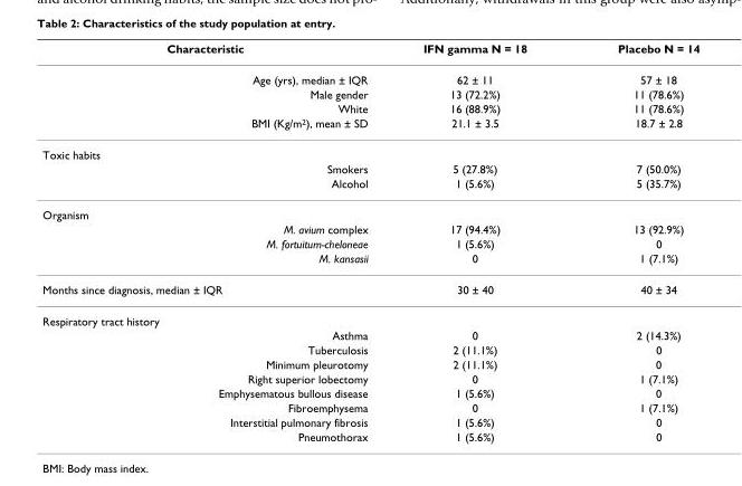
<table><thead><tr><td>Characteristic</td><td>IFN gamma N = 18</td><td>Placebo N = 14</td></tr></thead><tbody><tr><td>Age (yrs), median ± IQR</td><td>62 ± 11</td><td>57 ± 18</td></tr><tr><td>Male gender</td><td>13 (72.2%)</td><td>11 (78.6%)</td></tr><tr><td>White</td><td>16 (88.9%)</td><td>11 (78.6%)</td></tr><tr><td>BMI (Kg/m<sup>2</sup>), mean ± SD</td><td>21.1 ± 3.5</td><td>18.7 ± 2.8</td></tr><tr><td colspan="3">Toxic habits</td></tr><tr><td>Smokers</td><td>5 (27.8%)</td><td>7 (50.0%)</td></tr><tr><td>Alcohol</td><td>1 (5.6%)</td><td>5 (35.7%)</td></tr><tr><td colspan="3">Organism</td></tr><tr><td>M. avium complex</td><td>17 (94.4%)</td><td>13 (92.9%)</td></tr><tr><td>M. fortuitum-cheloneae</td><td>1 (5.6%)</td><td>0</td></tr><tr><td>M. kansasii</td><td>0</td><td>1 (7.1%)</td></tr><tr><td>Months since diagnosis, median ± IQR</td><td>30 ± 40</td><td>40 ± 34</td></tr><tr><td colspan="3">Respiratory tract history</td></tr><tr><td>Asthma</td><td>0</td><td>2 (14.3%)</td></tr><tr><td>Tuberculosis</td><td>2 (11.1%)</td><td>0</td></tr><tr><td>Minimum pleurotomy</td><td>2 (11.1%)</td><td>0</td></tr><tr><td>Right superior lobectomy</td><td>0</td><td>1 (7.1%)</td></tr><tr><td>Emphysematous bullous disease</td><td>1 (5.6%)</td><td>0</td></tr><tr><td>Fibroemphysema</td><td>0</td><td>1 (7.1%)</td></tr><tr><td>Interstitial pulmonary fibrosis</td><td>1 (5.6%)</td><td>0</td></tr><tr><td>Pneumothorax</td><td>1 (5.6%)</td><td>0</td></tr></tbody></table>